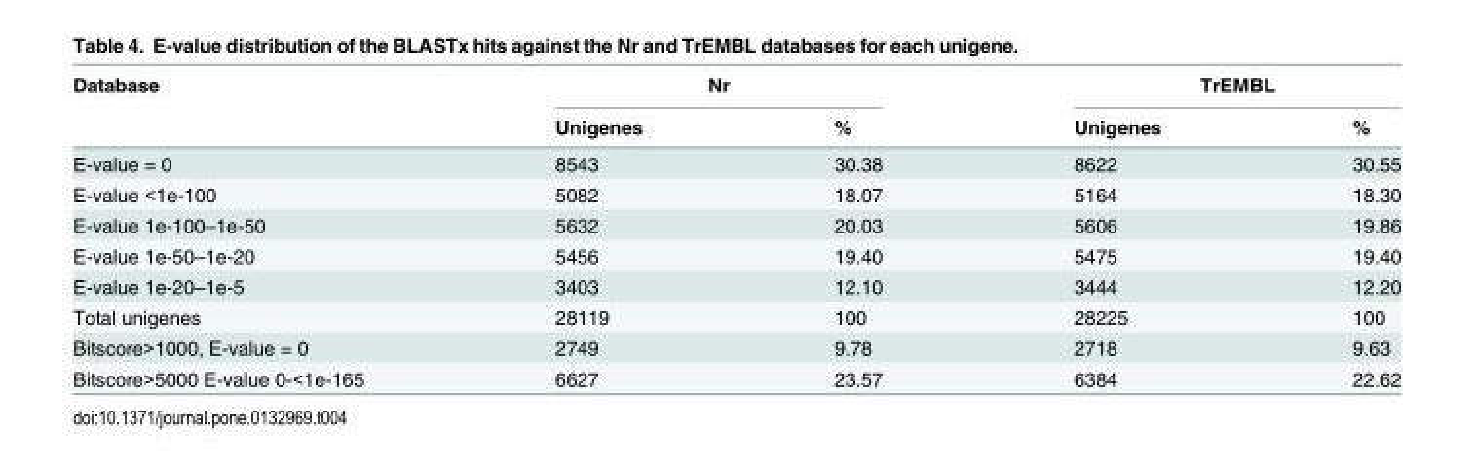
<table><thead><tr><td rowspan="2">Database</td><td colspan="2">Nr</td><td colspan="2">TrEMBL</td></tr><tr><td>Unigenes</td><td>%</td><td>Unigenes</td><td>%</td></tr></thead><tbody><tr><td>E-value = 0</td><td>8543</td><td>30.38</td><td>8622</td><td>30.55</td></tr><tr><td>E-value &lt;1e-100</td><td>5082</td><td>18.07</td><td>5164</td><td>18.30</td></tr><tr><td>E-value 1e-100–1e-50</td><td>5632</td><td>20.03</td><td>5606</td><td>19.86</td></tr><tr><td>E-value 1e-50–1e-20</td><td>5456</td><td>19.40</td><td>5475</td><td>19.40</td></tr><tr><td>E-value 1e-20–1e-5</td><td>3403</td><td>12.10</td><td>3444</td><td>12.20</td></tr><tr><td>Total unigenes</td><td>28119</td><td>100</td><td>28225</td><td>100</td></tr><tr><td>Bitscore&gt;1000, E-value = 0</td><td>2749</td><td>9.78</td><td>2718</td><td>9.63</td></tr><tr><td>Bitscore&gt;5000 E-value 0-&lt;1e-165</td><td>6627</td><td>23.57</td><td>6384</td><td>22.62</td></tr></tbody></table>